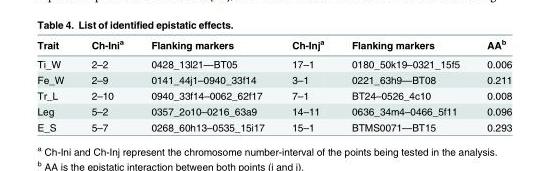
<table><thead><tr><td>Trait</td><td>Ch-Ini<sup>a</sup></td><td>Flanking markers</td><td>Ch-Inj<sup>a</sup></td><td>Flanking markers</td><td>AA<sup>b</sup></td></tr></thead><tbody><tr><td>Ti_W</td><td>2–2</td><td>0428_13l21—BT05</td><td>17–1</td><td>0180_50k19–0321_15f5</td><td>0.006</td></tr><tr><td>Fe_W</td><td>2–9</td><td>0141_44j1–0940_33f14</td><td>3–1</td><td>0221_63h9—BT08</td><td>0.211</td></tr><tr><td>Tr_L</td><td>2–10</td><td>0940_33f14–0062_62f17</td><td>7–1</td><td>BT24–0526_4c10</td><td>0.008</td></tr><tr><td>Leg</td><td>5–2</td><td>0357_2o10–0216_63a9</td><td>14–11</td><td>0636_34m4–0466_5f11</td><td>0.096</td></tr><tr><td>E_S</td><td>5–7</td><td>0268_60h13–0535_15i17</td><td>15–1</td><td>BTMS0071—BT15</td><td>0.293</td></tr></tbody></table>